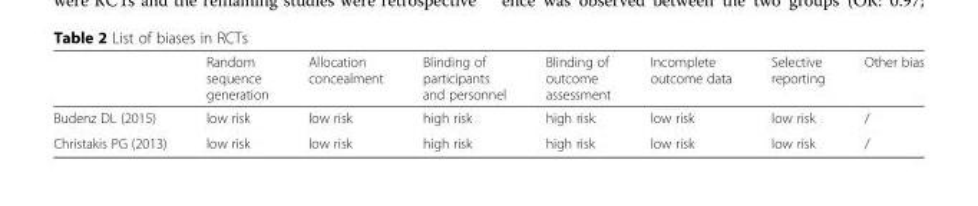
<table><thead><tr><td></td><td>Random sequence generation</td><td>Allocation concealment</td><td>Blinding of participants and personnel</td><td>Blinding of outcome assessment</td><td>Incomplete outcome data</td><td>Selective reporting</td><td>Other bias</td></tr></thead><tbody><tr><td>Budenz DL (2015)</td><td>low risk</td><td>low risk</td><td>high risk</td><td>high risk</td><td>low risk</td><td>low risk</td><td>/</td></tr><tr><td>Christakis PG (2013)</td><td>low risk</td><td>low risk</td><td>high risk</td><td>high risk</td><td>low risk</td><td>low risk</td><td>/</td></tr></tbody></table>